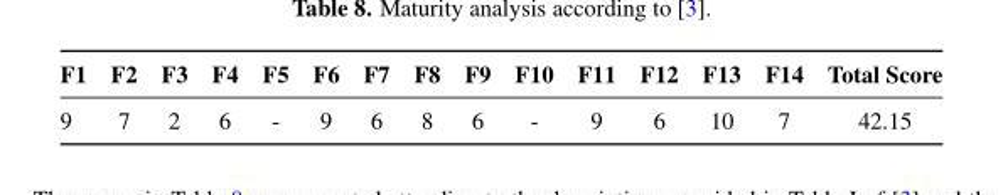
<table><thead><tr><td>F1</td><td>F2</td><td>F3</td><td>F4</td><td>F5</td><td>F6</td><td>F7</td><td>F8</td><td>F9</td><td>F10</td><td>F11</td><td>F12</td><td>F13</td><td>F14</td><td>Total Score</td></tr></thead><tbody><tr><td>9</td><td>7</td><td>2</td><td>6</td><td>-</td><td>9</td><td>6</td><td>8</td><td>6</td><td>-</td><td>9</td><td>6</td><td>10</td><td>7</td><td>42.15</td></tr></tbody></table>